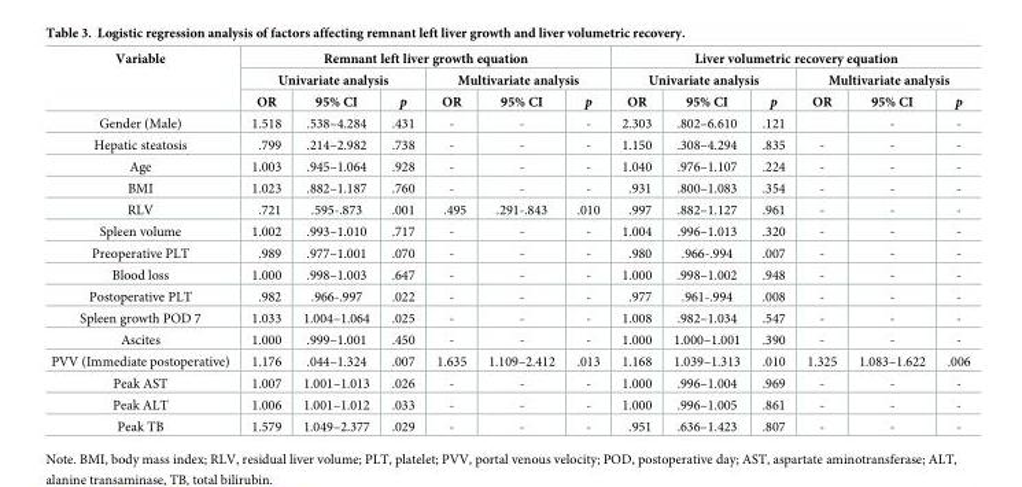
<table><thead><tr><td rowspan="3">Variable</td><td colspan="6">Remnant left liver growth equation</td><td colspan="6">Liver volumetric recovery equation</td></tr><tr><td colspan="3">Univariate analysis</td><td colspan="3">Multivariate analysis</td><td colspan="3">Univariate analysis</td><td colspan="3">Multivariate analysis</td></tr><tr><td>OR</td><td>95% CI</td><td>p</td><td>OR</td><td>95% CI</td><td>p</td><td>OR</td><td>95% CI</td><td>p</td><td>OR</td><td>95% CI</td><td>p</td></tr></thead><tbody><tr><td>Gender (Male)</td><td>1.518</td><td>.538–4.284</td><td>.431</td><td>-</td><td>-</td><td>-</td><td>2.303</td><td>.802–6.610</td><td>.121</td><td></td><td>-</td><td>-</td></tr><tr><td>Hepatic steatosis</td><td>.799</td><td>.214–2.982</td><td>.738</td><td>-</td><td>-</td><td>-</td><td>1.150</td><td>.308–4.294</td><td>.835</td><td>-</td><td>-</td><td>-</td></tr><tr><td>Age</td><td>1.003</td><td>.945–1.064</td><td>.928</td><td>-</td><td>-</td><td>-</td><td>1.040</td><td>.976–1.107</td><td>.224</td><td>-</td><td>-</td><td>-</td></tr><tr><td>BMI</td><td>1.023</td><td>.882–1.187</td><td>.760</td><td>-</td><td>-</td><td>-</td><td>.931</td><td>.800–1.083</td><td>.354</td><td>-</td><td>-</td><td>-</td></tr><tr><td>RLV</td><td>.721</td><td>.595-.873</td><td>.001</td><td>.495</td><td>.291-.843</td><td>.010</td><td>.997</td><td>.882–1.127</td><td>.961</td><td>-</td><td>-</td><td>-</td></tr><tr><td>Spleen volume</td><td>1.002</td><td>.993–1.010</td><td>.717</td><td>-</td><td>-</td><td>-</td><td>1.004</td><td>.996–1.013</td><td>.320</td><td>-</td><td>-</td><td>-</td></tr><tr><td>Preoperative PLT</td><td>.989</td><td>.977–1.001</td><td>.070</td><td>-</td><td>-</td><td>-</td><td>.980</td><td>.966-.994</td><td>.007</td><td>-</td><td>-</td><td>-</td></tr><tr><td>Blood loss</td><td>1.000</td><td>.998–1.003</td><td>.647</td><td>-</td><td>-</td><td>-</td><td>1.000</td><td>.998–1.002</td><td>.948</td><td>-</td><td>-</td><td>-</td></tr><tr><td>Postoperative PLT</td><td>.982</td><td>.966-.997</td><td>.022</td><td>-</td><td>-</td><td>-</td><td>.977</td><td>.961-.994</td><td>.008</td><td>-</td><td>-</td><td>-</td></tr><tr><td>Spleen growth POD 7</td><td>1.033</td><td>1.004–1.064</td><td>.025</td><td>-</td><td>-</td><td>-</td><td>1.008</td><td>.982–1.034</td><td>.547</td><td>-</td><td>-</td><td>-</td></tr><tr><td>Ascites</td><td>1.000</td><td>.999–1.001</td><td>.450</td><td>-</td><td>-</td><td>-</td><td>1.000</td><td>1.000–1.001</td><td>.390</td><td>-</td><td>-</td><td>-</td></tr><tr><td>PVV (Immediate postoperative)</td><td>1.176</td><td>.044–1.324</td><td>.007</td><td>1.635</td><td>1.109–2.412</td><td>.013</td><td>1.168</td><td>1.039–1.313</td><td>.010</td><td>1.325</td><td>1.083–1.622</td><td>.006</td></tr><tr><td>Peak AST</td><td>1.007</td><td>1.001–1.013</td><td>.026</td><td>-</td><td>-</td><td>-</td><td>1.000</td><td>.996–1.004</td><td>.969</td><td>-</td><td>-</td><td>-</td></tr><tr><td>Peak ALT</td><td>1.006</td><td>1.001–1.012</td><td>.033</td><td>-</td><td>-</td><td>-</td><td>1.000</td><td>.996–1.005</td><td>.861</td><td>-</td><td>-</td><td>-</td></tr><tr><td>Peak TB</td><td>1.579</td><td>1.049–2.377</td><td>.029</td><td>-</td><td>-</td><td>-</td><td>.951</td><td>.636–1.423</td><td>.807</td><td>-</td><td>-</td><td>-</td></tr></tbody></table>